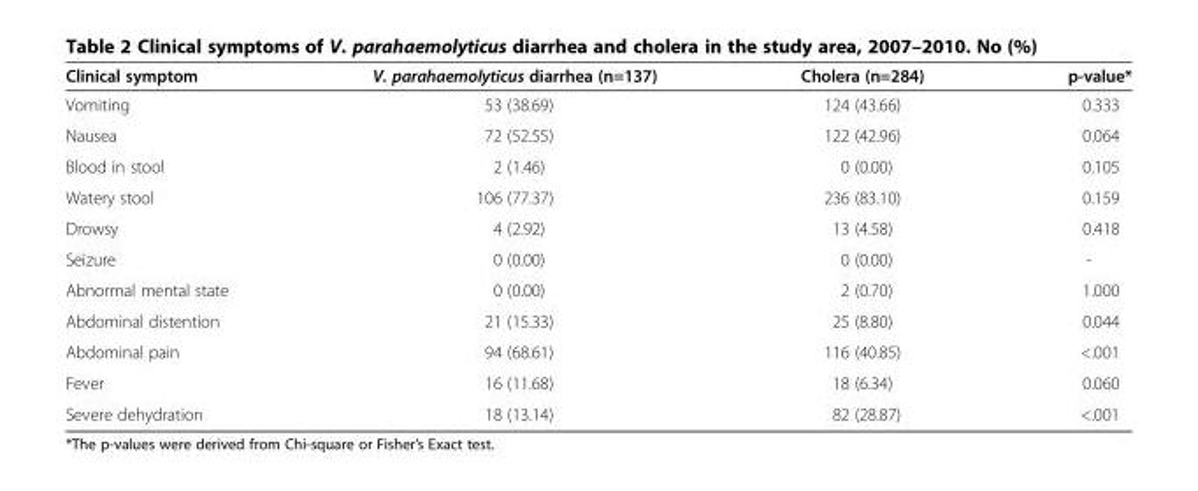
<table><thead><tr><td>Clinical symptom</td><td>V. parahaemolyticus diarrhea (n=137)</td><td>Cholera (n=284)</td><td>p-value*</td></tr></thead><tbody><tr><td>Vomiting</td><td>53 (38.69)</td><td>124 (43.66)</td><td>0.333</td></tr><tr><td>Nausea</td><td>72 (52.55)</td><td>122 (42.96)</td><td>0.064</td></tr><tr><td>Blood in stool</td><td>2 (1.46)</td><td>0 (0.00)</td><td>0.105</td></tr><tr><td>Watery stool</td><td>106 (77.37)</td><td>236 (83.10)</td><td>0.159</td></tr><tr><td>Drowsy</td><td>4 (2.92)</td><td>13 (4.58)</td><td>0.418</td></tr><tr><td>Seizure</td><td>0 (0.00)</td><td>0 (0.00)</td><td>-</td></tr><tr><td>Abnormal mental state</td><td>0 (0.00)</td><td>2 (0.70)</td><td>1.000</td></tr><tr><td>Abdominal distention</td><td>21 (15.33)</td><td>25 (8.80)</td><td>0.044</td></tr><tr><td>Abdominal pain</td><td>94 (68.61)</td><td>116 (40.85)</td><td>&lt;.001</td></tr><tr><td>Fever</td><td>16 (11.68)</td><td>18 (6.34)</td><td>0.060</td></tr><tr><td>Severe dehydration</td><td>18 (13.14)</td><td>82 (28.87)</td><td>&lt;.001</td></tr></tbody></table>